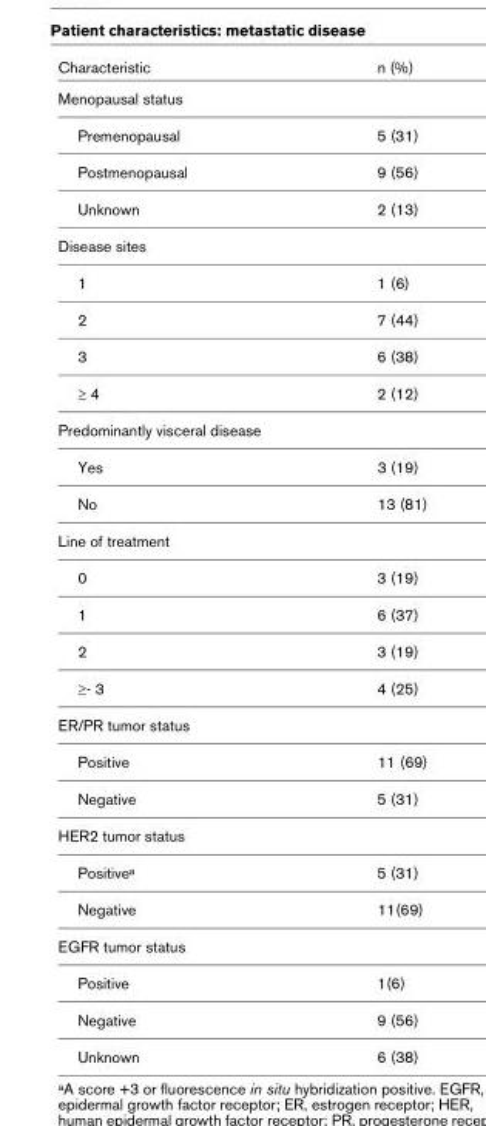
<table><thead><tr><td>Characteristic</td><td>n (%)</td></tr></thead><tbody><tr><td colspan="2">Menopausal status</td></tr><tr><td>Premenopausal</td><td>5 (31)</td></tr><tr><td>Postmenopausal</td><td>9 (56)</td></tr><tr><td>Unknown</td><td>2 (13)</td></tr><tr><td colspan="2">Disease sites</td></tr><tr><td>1</td><td>1 (6)</td></tr><tr><td>2</td><td>7 (44)</td></tr><tr><td>3</td><td>6 (38)</td></tr><tr><td>≥ 4</td><td>2 (12)</td></tr><tr><td colspan="2">Predominantly visceral disease</td></tr><tr><td>Yes</td><td>3 (19)</td></tr><tr><td>No</td><td>13 (81)</td></tr><tr><td colspan="2">Line of treatment</td></tr><tr><td>0</td><td>3 (19)</td></tr><tr><td>1</td><td>6 (37)</td></tr><tr><td>2</td><td>3 (19)</td></tr><tr><td>≥- 3</td><td>4 (25)</td></tr><tr><td colspan="2">ER/PR tumor status</td></tr><tr><td>Positive</td><td>11 (69)</td></tr><tr><td>Negative</td><td>5 (31)</td></tr><tr><td colspan="2">HER2 tumor status</td></tr><tr><td>Positivea</td><td>5 (31)</td></tr><tr><td>Negative</td><td>11(69)</td></tr><tr><td colspan="2">EGFR tumor status</td></tr><tr><td>Positive</td><td>1(6)</td></tr><tr><td>Negative</td><td>9 (56)</td></tr><tr><td>Unknown</td><td>6 (38)</td></tr></tbody></table>